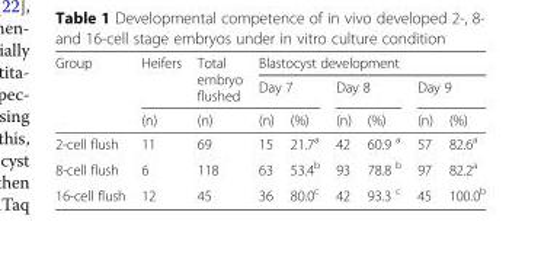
<table><thead><tr><td rowspan="3">Group</td><td rowspan="3">Heifers (n)</td><td rowspan="3">Total embryo flushed (n)</td><td colspan="6">Blastocyst development</td></tr><tr><td colspan="2">Day 7</td><td colspan="2">Day 8</td><td colspan="2">Day 9</td></tr><tr><td>(n)</td><td>(%)</td><td>(n)</td><td>(%)</td><td>(n)</td><td>(%)</td></tr></thead><tbody><tr><td>2-cell flush</td><td>11</td><td>69</td><td>15</td><td>21.7<sup>a</sup></td><td>42</td><td>60.9 <sup>a</sup></td><td>57</td><td>82.6<sup>a</sup></td></tr><tr><td>8-cell flush</td><td>6</td><td>118</td><td>63</td><td>53.4<sup>b</sup></td><td>93</td><td>78.8 <sup>b</sup></td><td>97</td><td>82.2<sup>a</sup></td></tr><tr><td>16-cell flush</td><td>12</td><td>45</td><td>36</td><td>80.0<sup>c</sup></td><td>42</td><td>93.3 <sup>c</sup></td><td>45</td><td>100.0<sup>b</sup></td></tr></tbody></table>